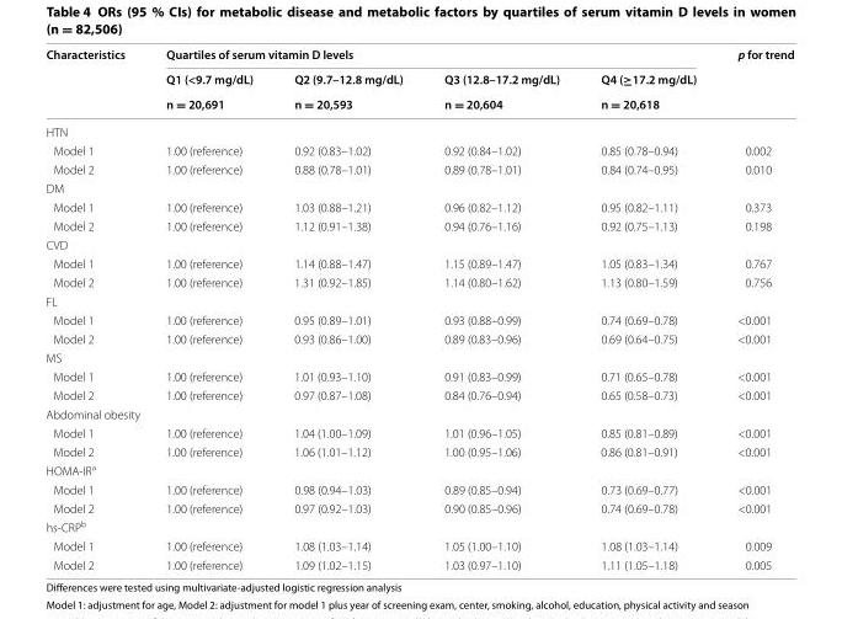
<table><thead><tr><td rowspan="3">Characteristics</td><td colspan="4">Quartiles of serum vitamin D levels</td><td rowspan="3">p for trend</td></tr><tr><td rowspan="2">Q1 (&lt;9.7 mg/dL) n = 20,691</td><td rowspan="2">Q2 (9.7–12.8 mg/dL) n = 20,593</td><td rowspan="2">Q3 (12.8–17.2 mg/dL) n = 20,604</td><td rowspan="2">Q4 (≥17.2 mg/dL) n = 20,618</td></tr><tr></tr></thead><tbody><tr><td colspan="6">HTN</td></tr><tr><td>Model 1</td><td>1.00 (reference)</td><td>0.92 (0.83–1.02)</td><td>0.92 (0.84–1.02)</td><td>0.85 (0.78–0.94)</td><td>0.002</td></tr><tr><td>Model 2</td><td>1.00 (reference)</td><td>0.88 (0.78–1.01)</td><td>0.89 (0.78–1.01)</td><td>0.84 (0.74–0.95)</td><td>0.010</td></tr><tr><td colspan="6">DM</td></tr><tr><td>Model 1</td><td>1.00 (reference)</td><td>1.03 (0.88–1.21)</td><td>0.96 (0.82–1.12)</td><td>0.95 (0.82–1.11)</td><td>0.373</td></tr><tr><td>Model 2</td><td>1.00 (reference)</td><td>1.12 (0.91–1.38)</td><td>0.94 (0.76–1.16)</td><td>0.92 (0.75–1.13)</td><td>0.198</td></tr><tr><td colspan="6">CVD</td></tr><tr><td>Model 1</td><td>1.00 (reference)</td><td>1.14 (0.88–1.47)</td><td>1.15 (0.89–1.47)</td><td>1.05 (0.83–1.34)</td><td>0.767</td></tr><tr><td>Model 2</td><td>1.00 (reference)</td><td>1.31 (0.92–1.85)</td><td>1.14 (0.80–1.62)</td><td>1.13 (0.80–1.59)</td><td>0.756</td></tr><tr><td colspan="6">FL</td></tr><tr><td>Model 1</td><td>1.00 (reference)</td><td>0.95 (0.89–1.01)</td><td>0.93 (0.88–0.99)</td><td>0.74 (0.69–0.78)</td><td>&lt;0.001</td></tr><tr><td>Model 2</td><td>1.00 (reference)</td><td>0.93 (0.86–1.00)</td><td>0.89 (0.83–0.96)</td><td>0.69 (0.64–0.75)</td><td>&lt;0.001</td></tr><tr><td colspan="6">MS</td></tr><tr><td>Model 1</td><td>1.00 (reference)</td><td>1.01 (0.93–1.10)</td><td>0.91 (0.83–0.99)</td><td>0.71 (0.65–0.78)</td><td>&lt;0.001</td></tr><tr><td>Model 2</td><td>1.00 (reference)</td><td>0.97 (0.87–1.08)</td><td>0.84 (0.76–0.94)</td><td>0.65 (0.58–0.73)</td><td>&lt;0.001</td></tr><tr><td colspan="6">Abdominal obesity</td></tr><tr><td>Model 1</td><td>1.00 (reference)</td><td>1.04 (1.00–1.09)</td><td>1.01 (0.96–1.05)</td><td>0.85 (0.81–0.89)</td><td>&lt;0.001</td></tr><tr><td>Model 2</td><td>1.00 (reference)</td><td>1.06 (1.01–1.12)</td><td>1.00 (0.95–1.06)</td><td>0.86 (0.81–0.91)</td><td>&lt;0.001</td></tr><tr><td colspan="6">HOMA‑IR<sup>a</sup></td></tr><tr><td>Model 1</td><td>1.00 (reference)</td><td>0.98 (0.94–1.03)</td><td>0.89 (0.85–0.94)</td><td>0.73 (0.69–0.77)</td><td>&lt;0.001</td></tr><tr><td>Model 2</td><td>1.00 (reference)</td><td>0.97 (0.92–1.03)</td><td>0.90 (0.85–0.96)</td><td>0.74 (0.69–0.78)</td><td>&lt;0.001</td></tr><tr><td colspan="6">hs‑CRP<sup>b</sup></td></tr><tr><td>Model 1</td><td>1.00 (reference)</td><td>1.08 (1.03–1.14)</td><td>1.05 (1.00–1.10)</td><td>1.08 (1.03–1.14)</td><td>0.009</td></tr><tr><td>Model 2</td><td>1.00 (reference)</td><td>1.09 (1.02–1.15)</td><td>1.03 (0.97–1.10)</td><td>1.11 (1.05–1.18)</td><td>0.005</td></tr></tbody></table>